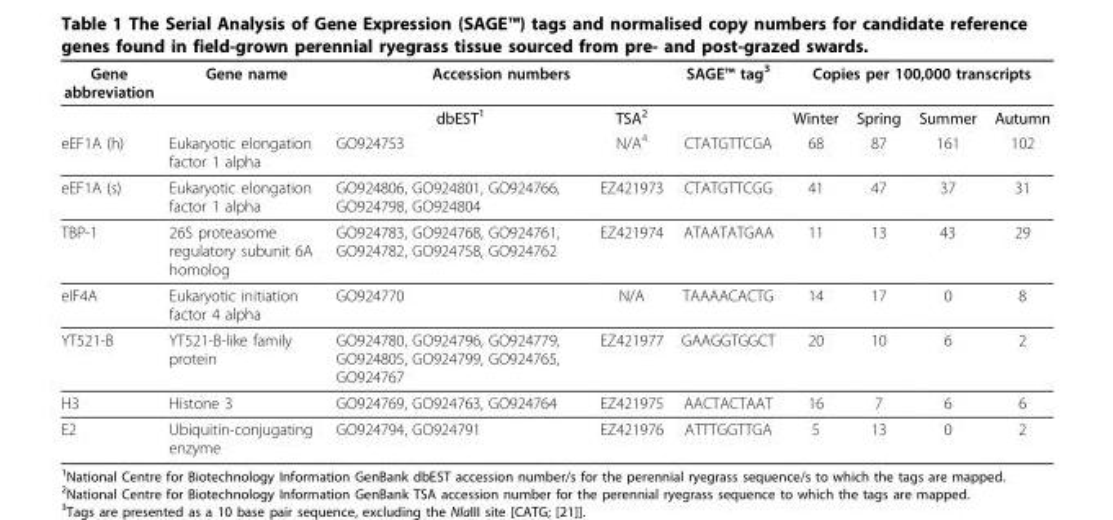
<table><thead><tr><td rowspan="2">Gene abbreviation</td><td rowspan="2">Gene name</td><td colspan="2">Accession numbers</td><td rowspan="2">SAGE™ tag<sup>3</sup></td><td colspan="4">Copies per 100,000 transcripts</td></tr><tr><td>dbEST<sup>1</sup></td><td>TSA<sup>2</sup></td><td>Winter</td><td>Spring</td><td>Summer</td><td>Autumn</td></tr></thead><tbody><tr><td>eEF1A (h)</td><td>Eukaryotic elongation factor 1 alpha</td><td>GO924753</td><td>N/A<sup>4</sup></td><td>CTATGTTCGA</td><td>68</td><td>87</td><td>161</td><td>102</td></tr><tr><td>eEF1A (s)</td><td>Eukaryotic elongation factor 1 alpha</td><td>GO924806, GO924801, GO924766, GO924798, GO924804</td><td>EZ421973</td><td>CTATGTTCGG</td><td>41</td><td>47</td><td>37</td><td>31</td></tr><tr><td>TBP-1</td><td>26S proteasome regulatory subunit 6A homolog</td><td>GO924783, GO924768, GO924761, GO924782, GO924758, GO924762</td><td>EZ421974</td><td>ATAATATGAA</td><td>11</td><td>13</td><td>43</td><td>29</td></tr><tr><td>eIF4A</td><td>Eukaryotic initiation factor 4 alpha</td><td>GO924770</td><td>N/A</td><td>TAAAACACTG</td><td>14</td><td>17</td><td>0</td><td>8</td></tr><tr><td>YT521-B</td><td>YT521-B-like family protein</td><td>GO924780, GO924796, GO924779, GO924805, GO924799, GO924765, GO924767</td><td>EZ421977</td><td>GAAGGTGGCT</td><td>20</td><td>10</td><td>6</td><td>2</td></tr><tr><td>H3</td><td>Histone 3</td><td>GO924769, GO924763, GO924764</td><td>EZ421975</td><td>AACTACTAAT</td><td>16</td><td>7</td><td>6</td><td>6</td></tr><tr><td>E2</td><td>Ubiquitin-conjugating enzyme</td><td>GO924794, GO924791</td><td>EZ421976</td><td>ATTTGGTTGA</td><td>5</td><td>13</td><td>0</td><td>2</td></tr></tbody></table>